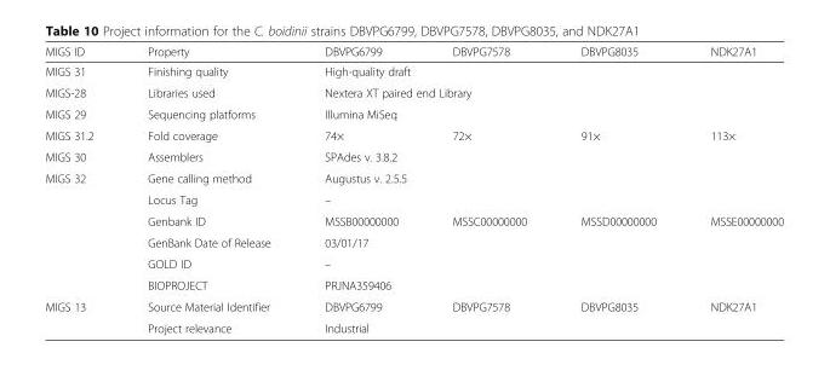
<table><thead><tr><td>MIGS ID</td><td>Property</td><td>DBVPG6799</td><td>DBVPG7578</td><td>DBVPG8035</td><td>NDK27A1</td></tr></thead><tbody><tr><td>MIGS 31</td><td>Finishing quality</td><td colspan="4">High-quality draft</td></tr><tr><td>MIGS-28</td><td>Libraries used</td><td colspan="4">Nextera XT paired end Library</td></tr><tr><td>MIGS 29</td><td>Sequencing platforms</td><td colspan="4">Illumina MiSeq</td></tr><tr><td>MIGS 31.2</td><td>Fold coverage</td><td>74×</td><td>72×</td><td>91×</td><td>113×</td></tr><tr><td>MIGS 30</td><td>Assemblers</td><td colspan="4">SPAdes v. 3.8.2</td></tr><tr><td rowspan="6">MIGS 32</td><td>Gene calling method</td><td colspan="4">Augustus v. 2.5.5</td></tr><tr><td>Locus Tag</td><td>–</td><td></td><td></td><td></td></tr><tr><td>Genbank ID</td><td>MSSB00000000</td><td>MSSC00000000</td><td>MSSD00000000</td><td>MSSE00000000</td></tr><tr><td>GenBank Date of Release</td><td colspan="4">03/01/17</td></tr><tr><td>GOLD ID</td><td colspan="4">–</td></tr><tr><td>BIOPROJECT</td><td colspan="4">PRJNA359406</td></tr><tr><td rowspan="2">MIGS 13</td><td>Source Material Identifier</td><td>DBVPG6799</td><td>DBVPG7578</td><td>DBVPG8035</td><td>NDK27A1</td></tr><tr><td>Project relevance</td><td colspan="4">Industrial</td></tr></tbody></table>